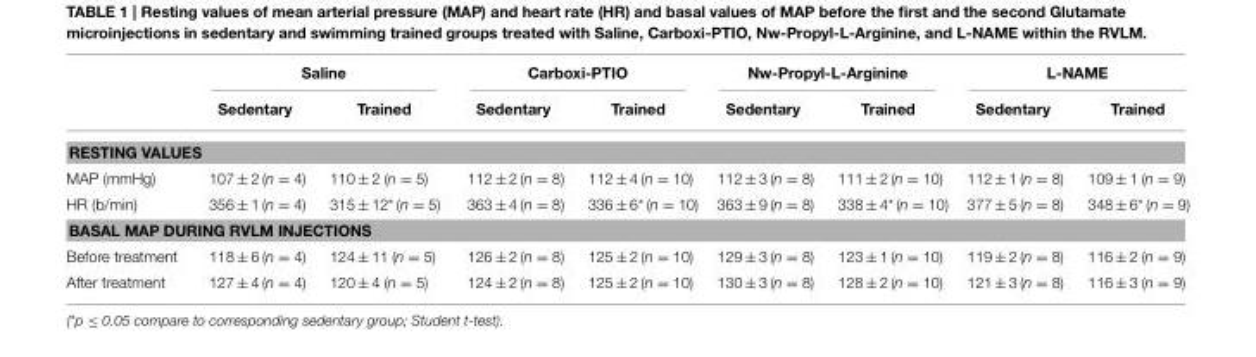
<table><thead><tr><td rowspan="2"></td><td colspan="2">Saline</td><td colspan="2">Carboxi-PTIO</td><td colspan="2">Nw-Propyl-L-Arginine</td><td colspan="2">L-NAME</td></tr><tr><td>Sedentary</td><td>Trained</td><td>Sedentary</td><td>Trained</td><td>Sedentary</td><td>Trained</td><td>Sedentary</td><td>Trained</td></tr></thead><tbody><tr><td colspan="9">RESTING VALUES</td></tr><tr><td>MAP (mmHg)</td><td>107 ± 2 (n = 4)</td><td>110 ± 2 (n = 5)</td><td>112 ± 2 (n = 8)</td><td>112 ± 4 (n = 10)</td><td>112 ± 3 (n = 8)</td><td>111 ± 2 (n = 10)</td><td>112 ± 1 (n = 8)</td><td>109 ± 1 (n = 9)</td></tr><tr><td>HR (b/min)</td><td>356 ± 1 (n = 4)</td><td>315 ± 12* (n = 5)</td><td>363 ± 4 (n = 8)</td><td>336 ± 6* (n = 10)</td><td>363 ± 9 (n = 8)</td><td>338 ± 4* (n = 10)</td><td>377 ± 5 (n = 8)</td><td>348 ± 6* (n = 9)</td></tr><tr><td colspan="9">BASAL MAP DURING RVLM INJECTIONS</td></tr><tr><td>Before treatment</td><td>118 ± 6 (n = 4)</td><td>124 ± 11 (n = 5)</td><td>126 ± 2 (n = 8)</td><td>125 ± 2 (n = 10)</td><td>129 ± 3 (n = 8)</td><td>123 ± 1 (n = 10)</td><td>119 ± 2 (n = 8)</td><td>116 ± 2 (n = 9)</td></tr><tr><td>After treatment</td><td>127 ± 4 (n = 4)</td><td>120 ± 4 (n = 5)</td><td>124 ± 2 (n = 8)</td><td>125 ± 2 (n = 10)</td><td>130 ± 3 (n = 8)</td><td>128 ± 2 (n = 10)</td><td>121 ± 3 (n = 8)</td><td>116 ± 3 (n = 9)</td></tr></tbody></table>